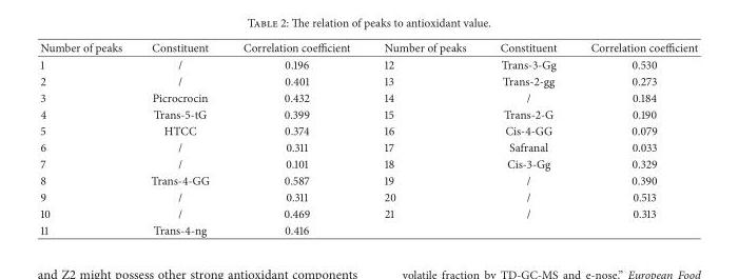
<table><thead><tr><td>Number of peaks</td><td>Constituent</td><td>Correlation coefficient</td><td>Number of peaks</td><td>Constituent</td><td>Correlation coefficient</td></tr></thead><tbody><tr><td>1</td><td>/</td><td>0.196</td><td>12</td><td>Trans-3-Gg</td><td>0.530</td></tr><tr><td>2</td><td>/</td><td>0.401</td><td>13</td><td>Trans-2-gg</td><td>0.273</td></tr><tr><td>3</td><td>Picrocrocin</td><td>0.432</td><td>14</td><td>/</td><td>0.184</td></tr><tr><td>4</td><td>Trans-5-tG</td><td>0.399</td><td>15</td><td>Trans-2-G</td><td>0.190</td></tr><tr><td>5</td><td>HTCC</td><td>0.374</td><td>16</td><td>Cis-4-GG</td><td>0.079</td></tr><tr><td>6</td><td>/</td><td>0.311</td><td>17</td><td>Safranal</td><td>0.033</td></tr><tr><td>7</td><td>/</td><td>0.101</td><td>18</td><td>Cis-3-Gg</td><td>0.329</td></tr><tr><td>8</td><td>Trans-4-GG</td><td>0.587</td><td>19</td><td>/</td><td>0.390</td></tr><tr><td>9</td><td>/</td><td>0.311</td><td>20</td><td>/</td><td>0.513</td></tr><tr><td>10</td><td>/</td><td>0.469</td><td>21</td><td>/</td><td>0.313</td></tr><tr><td>11</td><td>Trans-4-ng</td><td>0.416</td><td></td><td></td><td></td></tr></tbody></table>